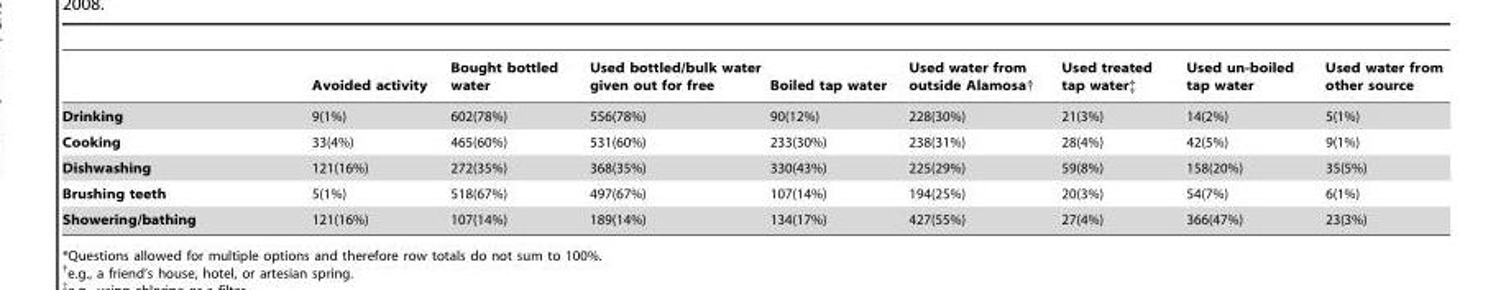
<table><thead><tr><td></td><td>Avoided activity</td><td>Bought bottled water</td><td>Used bottled/bulk water given out for free</td><td>Boiled tap water</td><td>Used water from outside Alamosa†</td><td>Used treated tap water‡</td><td>Used un-boiled tap water</td><td>Used water from other source</td></tr></thead><tbody><tr><td>Drinking</td><td>9(1%)</td><td>602(78%)</td><td>556(78%)</td><td>90(12%)</td><td>228(30%)</td><td>21(3%)</td><td>14(2%)</td><td>5(1%)</td></tr><tr><td>Cooking</td><td>33(4%)</td><td>465(60%)</td><td>531(60%)</td><td>233(30%)</td><td>238(31%)</td><td>28(4%)</td><td>42(5%)</td><td>9(1%)</td></tr><tr><td>Dishwashing</td><td>121(16%)</td><td>272(35%)</td><td>368(35%)</td><td>330(43%)</td><td>225(29%)</td><td>59(8%)</td><td>158(20%)</td><td>35(5%)</td></tr><tr><td>Brushing teeth</td><td>5(1%)</td><td>518(67%)</td><td>497(67%)</td><td>107(14%)</td><td>194(25%)</td><td>20(3%)</td><td>54(7%)</td><td>6(1%)</td></tr><tr><td>Showering/bathing</td><td>121(16%)</td><td>107(14%)</td><td>189(14%)</td><td>134(17%)</td><td>427(55%)</td><td>27(4%)</td><td>366(47%)</td><td>23(3%)</td></tr></tbody></table>